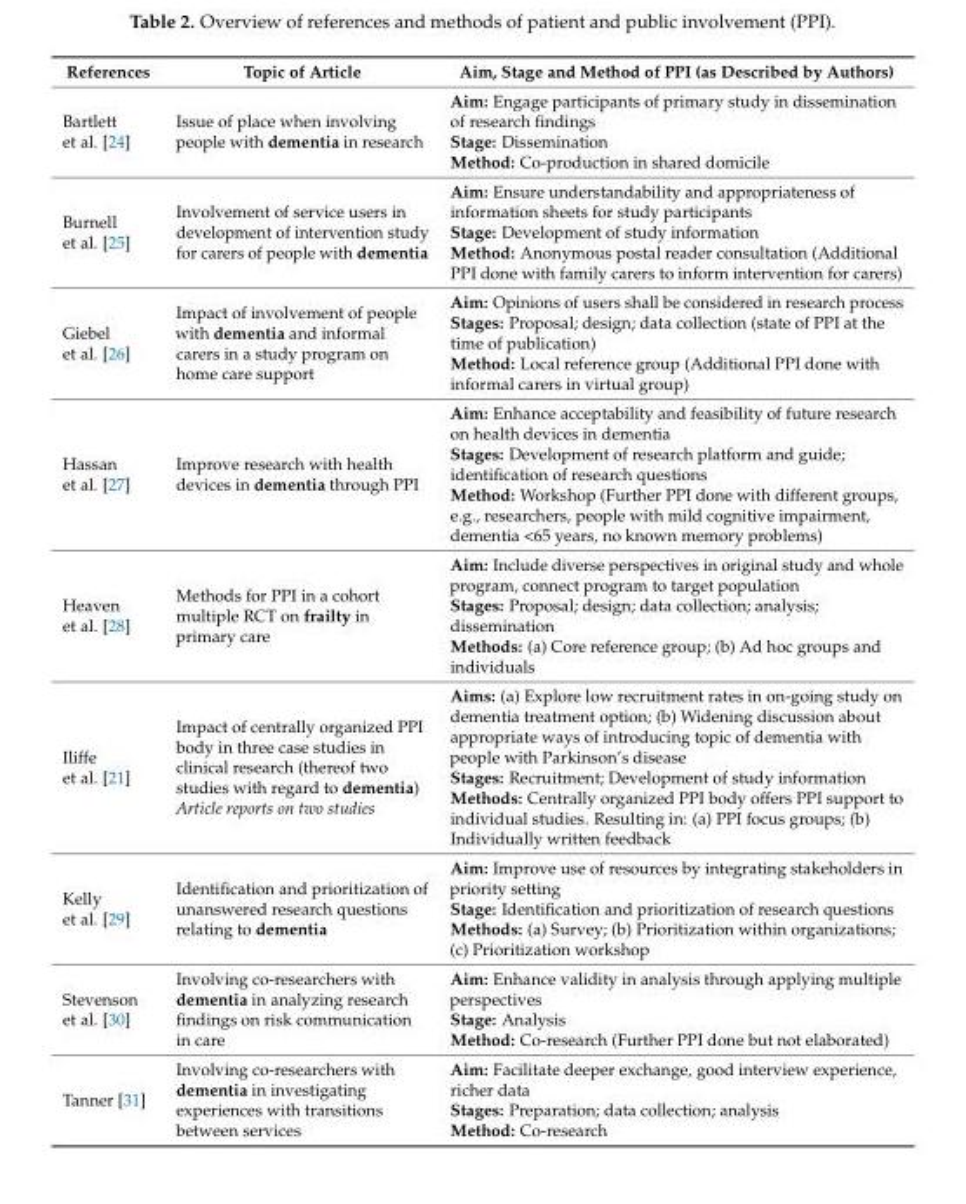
<table><thead><tr><td>References</td><td>Topic of Article</td><td>Aim, Stage and Method of PPI (as Described by Authors)</td></tr></thead><tbody><tr><td>Bartlett et al. [24]</td><td>Issue of place when involving people with dementia in research</td><td>Aim: Engage participants of primary study in dissemination of research findings Stage: Dissemination Method: Co-production in shared domicile</td></tr><tr><td>Burnell et al. [25]</td><td>Involvement of service users in development of intervention study for carers of people with dementia</td><td>Aim: Ensure understandability and appropriateness of information sheets for study participants Stage: Development of study information Method: Anonymous postal reader consultation (Additional PPI done with family carers to inform intervention for carers)</td></tr><tr><td>Giebel et al. [26]</td><td>Impact of involvement of people with dementia and informal carers in a study program on home care support</td><td>Aim: Opinions of users shall be considered in research process Stages: Proposal; design; data collection (state of PPI at the time of publication) Method: Local reference group (Additional PPI done with informal carers in virtual group)</td></tr><tr><td>Hassan et al. [27]</td><td>Improve research with health devices in dementia through PPI</td><td>Aim: Enhance acceptability and feasibility of future research on health devices in dementia Stages: Development of research platform and guide; identification of research questions Method: Workshop (Further PPI done with different groups, e.g., researchers, people with mild cognitive impairment, dementia &lt;65 years, no known memory problems)</td></tr><tr><td>Heaven et al. [28]</td><td>Methods for PPI in a cohort multiple RCT on frailty in primary care</td><td>Aim: Include diverse perspectives in original study and whole program, connect program to target population Stages: Proposal; design; data collection; analysis; dissemination Methods: (a) Core reference group; (b) Ad hoc groups and individuals</td></tr><tr><td>Iliffe et al. [21]</td><td>Impact of centrally organized PPI body in three case studies in clinical research (thereof two studies with regard to dementia) Article reports on two studies</td><td>Aims: (a) Explore low recruitment rates in on-going study on dementia treatment option; (b) Widening discussion about appropriate ways of introducing topic of dementia with people with Parkinson’s disease Stages: Recruitment; Development of study information Methods: Centrally organized PPI body offers PPI support to individual studies. Resulting in: (a) PPI focus groups; (b) Individually written feedback</td></tr><tr><td>Kelly et al. [29]</td><td>Identification and prioritization of unanswered research questions relating to dementia</td><td>Aim: Improve use of resources by integrating stakeholders in priority setting Stage: Identification and prioritization of research questions Methods: (a) Survey; (b) Prioritization within organizations; (c) Prioritization workshop</td></tr><tr><td>Stevenson et al. [30]</td><td>Involving co-researchers with dementia in analyzing research findings on risk communication in care</td><td>Aim: Enhance validity in analysis through applying multiple perspectives Stage: Analysis Method: Co-research (Further PPI done but not elaborated)</td></tr><tr><td>Tanner [31]</td><td>Involving co-researchers with dementia in investigating experiences with transitions between services</td><td>Aim: Facilitate deeper exchange, good interview experience, richer data Stages: Preparation; data collection; analysis Method: Co-research</td></tr></tbody></table>